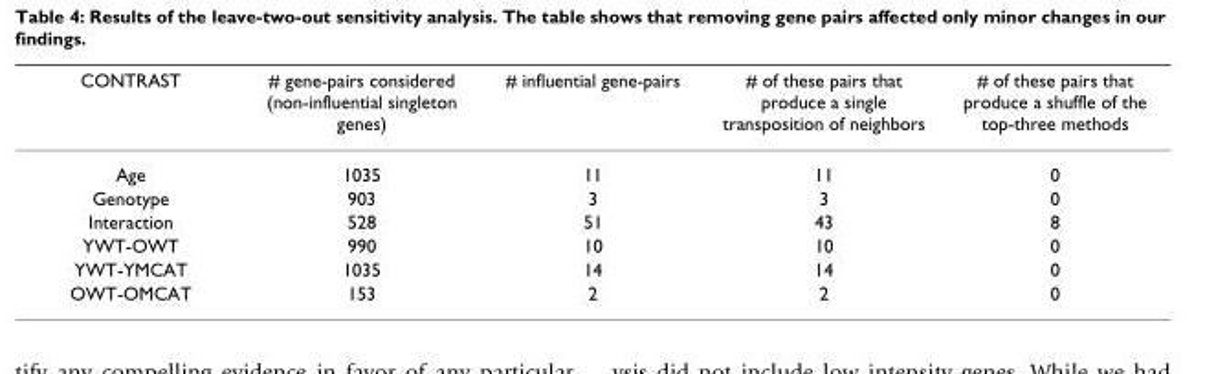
<table><thead><tr><td>CONTRAST</td><td># gene-pairs considered (non-influential singleton genes)</td><td># influential gene-pairs</td><td># of these pairs that produce a single transposition of neighbors</td><td># of these pairs that produce a shuffle of the top-three methods</td></tr></thead><tbody><tr><td>Age</td><td>1035</td><td>11</td><td>11</td><td>0</td></tr><tr><td>Genotype</td><td>903</td><td>3</td><td>3</td><td>0</td></tr><tr><td>Interaction</td><td>528</td><td>51</td><td>43</td><td>8</td></tr><tr><td>YWT-OWT</td><td>990</td><td>10</td><td>10</td><td>0</td></tr><tr><td>YWT-YMCAT</td><td>1035</td><td>14</td><td>14</td><td>0</td></tr><tr><td>OWT-OMCAT</td><td>153</td><td>2</td><td>2</td><td>0</td></tr></tbody></table>